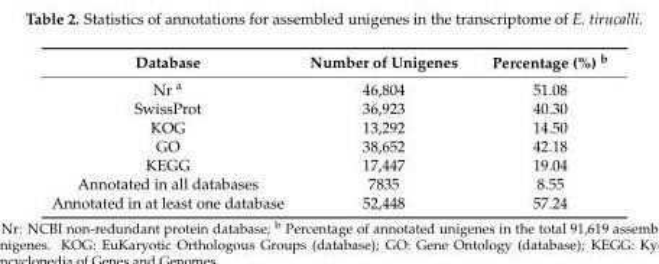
<table><thead><tr><td>Database</td><td>Number of Unigenes</td><td>Percentage (%) <sup>b</sup></td></tr></thead><tbody><tr><td>Nr <sup>a</sup></td><td>46,804</td><td>51.08</td></tr><tr><td>SwissProt</td><td>36,923</td><td>40.30</td></tr><tr><td>KOG</td><td>13,292</td><td>14.50</td></tr><tr><td>GO</td><td>38,652</td><td>42.18</td></tr><tr><td>KEGG</td><td>17,447</td><td>19.04</td></tr><tr><td>Annotated in all databases</td><td>7835</td><td>8.55</td></tr><tr><td>Annotated in at least one database</td><td>52,448</td><td>57.24</td></tr></tbody></table>